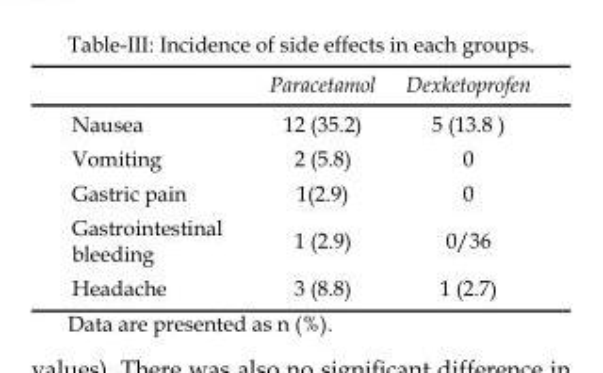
<table><thead><tr><td></td><td>Paracetamol</td><td>Dexketoprofen</td></tr></thead><tbody><tr><td>Nausea</td><td>12 (35.2)</td><td>5 (13.8 )</td></tr><tr><td>Vomiting</td><td>2 (5.8)</td><td>0</td></tr><tr><td>Gastric pain</td><td>1(2.9)</td><td>0</td></tr><tr><td>Gastrointestinal bleeding</td><td>1 (2.9)</td><td>0/36</td></tr><tr><td>Headache</td><td>3 (8.8)</td><td>1 (2.7)</td></tr></tbody></table>